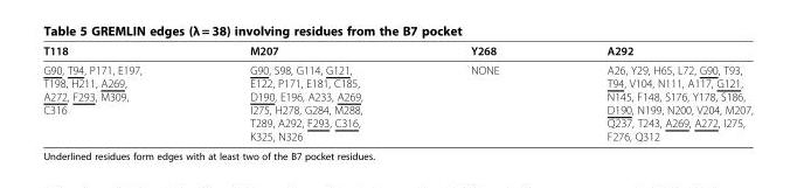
<table><thead><tr><td>T118</td><td>M207</td><td>Y268</td><td>A292</td></tr></thead><tbody><tr><td>G90, T94, P171, E197, T198, H211, A269, A272, F293, M309, C316</td><td>G90, S98, G114, G121, E122, P171, E181, C185, D190, E196, A233, A269, I275, H278, G284, M288, T289, A292, F293, C316, K325, N326</td><td>NONE</td><td>A26, Y29, H65, L72, G90, T93, T94, V104, N111, A117, G121, N145, F148, S176, Y178, S186, D190, N199, N200, V204, M207, Q237, T243, A269, A272, I275, F276, Q312</td></tr></tbody></table>